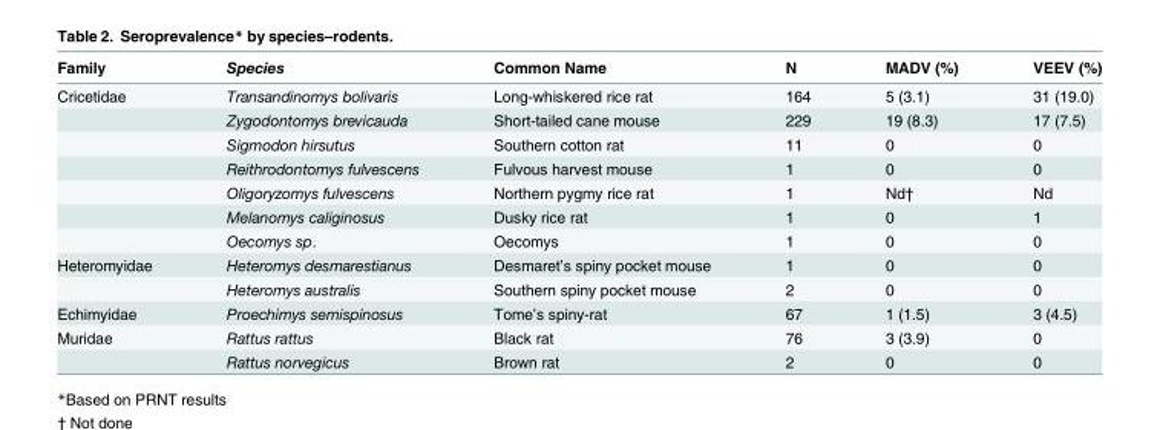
<table><thead><tr><td>Family</td><td>Species</td><td>Common Name</td><td>N</td><td>MADV (%)</td><td>VEEV (%)</td></tr></thead><tbody><tr><td rowspan="7">Cricetidae</td><td>Transandinomys bolivaris</td><td>Long-whiskered rice rat</td><td>164</td><td>5 (3.1)</td><td>31 (19.0)</td></tr><tr><td>Zygodontomys brevicauda</td><td>Short-tailed cane mouse</td><td>229</td><td>19 (8.3)</td><td>17 (7.5)</td></tr><tr><td>Sigmodon hirsutus</td><td>Southern cotton rat</td><td>11</td><td>0</td><td>0</td></tr><tr><td>Reithrodontomys fulvescens</td><td>Fulvous harvest mouse</td><td>1</td><td>0</td><td>0</td></tr><tr><td>Oligoryzomys fulvescens</td><td>Northern pygmy rice rat</td><td>1</td><td>Nd†</td><td>Nd</td></tr><tr><td>Melanomys caliginosus</td><td>Dusky rice rat</td><td>1</td><td>0</td><td>1</td></tr><tr><td>Oecomys sp.</td><td>Oecomys</td><td>1</td><td>0</td><td>0</td></tr><tr><td rowspan="2">Heteromyidae</td><td>Heteromys desmarestianus</td><td>Desmaret’s spiny pocket mouse</td><td>1</td><td>0</td><td>0</td></tr><tr><td>Heteromys australis</td><td>Southern spiny pocket mouse</td><td>2</td><td>0</td><td>0</td></tr><tr><td>Echimyidae</td><td>Proechimys semispinosus</td><td>Tome’s spiny-rat</td><td>67</td><td>1 (1.5)</td><td>3 (4.5)</td></tr><tr><td rowspan="2">Muridae</td><td>Rattus rattus</td><td>Black rat</td><td>76</td><td>3 (3.9)</td><td>0</td></tr><tr><td>Rattus norvegicus</td><td>Brown rat</td><td>2</td><td>0</td><td>0</td></tr></tbody></table>